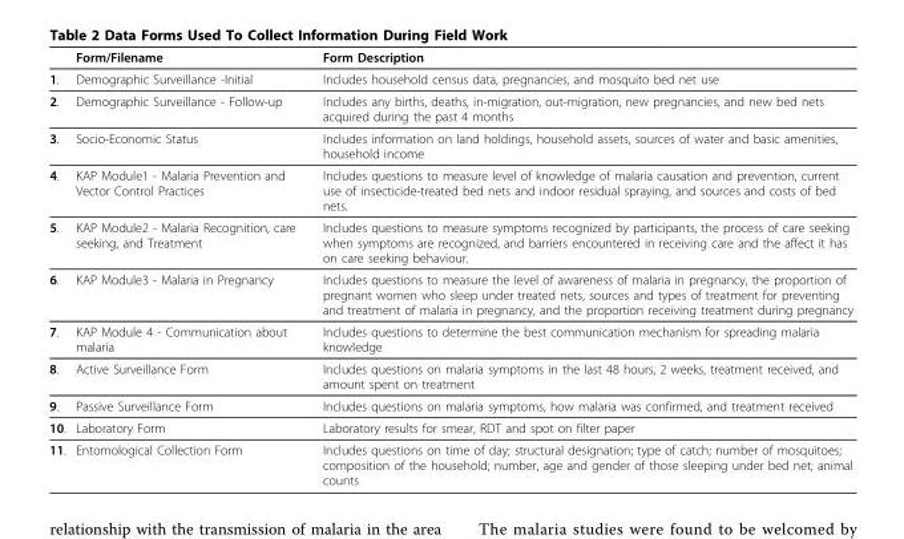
<table><thead><tr><td></td><td>Form/Filename</td><td>Form Description</td></tr></thead><tbody><tr><td>1.</td><td>Demographic Surveillance -Initial</td><td>Includes household census data, pregnancies, and mosquito bed net use</td></tr><tr><td>2.</td><td>Demographic Surveillance - Follow-up</td><td>Includes any births, deaths, in-migration, out-migration, new pregnancies, and new bed nets acquired during the past 4 months</td></tr><tr><td>3.</td><td>Socio-Economic Status</td><td>Includes information on land holdings, household assets, sources of water and basic amenities, household income</td></tr><tr><td>4.</td><td>KAP Module1 - Malaria Prevention and Vector Control Practices</td><td>Includes questions to measure level of knowledge of malaria causation and prevention, current use of insecticide-treated bed nets and indoor residual spraying, and sources and costs of bed nets.</td></tr><tr><td>5.</td><td>KAP Module2 - Malaria Recognition, care seeking, and Treatment</td><td>Includes questions to measure symptoms recognized by participants, the process of care seeking when symptoms are recognized, and barriers encountered in receiving care and the affect it has on care seeking behaviour.</td></tr><tr><td>6.</td><td>KAP Module3 - Malaria in Pregnancy</td><td>Includes questions to measure the level of awareness of malaria in pregnancy, the proportion of pregnant women who sleep under treated nets, sources and types of treatment for preventing and treatment of malaria in pregnancy, and the proportion receiving treatment during pregnancy</td></tr><tr><td>7.</td><td>KAP Module 4 - Communication about malaria</td><td>Includes questions to determine the best communication mechanism for spreading malaria knowledge</td></tr><tr><td>8.</td><td>Active Surveillance Form</td><td>Includes questions on malaria symptoms in the last 48 hours, 2 weeks, treatment received, and amount spent on treatment</td></tr><tr><td>9.</td><td>Passive Surveillance Form</td><td>Includes questions on malaria symptoms, how malaria was confirmed, and treatment received</td></tr><tr><td>10.</td><td>Laboratory Form</td><td>Laboratory results for smear, RDT and spot on filter paper</td></tr><tr><td>11.</td><td>Entomological Collection Form</td><td>Includes questions on time of day; structural designation; type of catch; number of mosquitoes; composition of the household; number, age and gender of those sleeping under bed net; animal counts</td></tr></tbody></table>